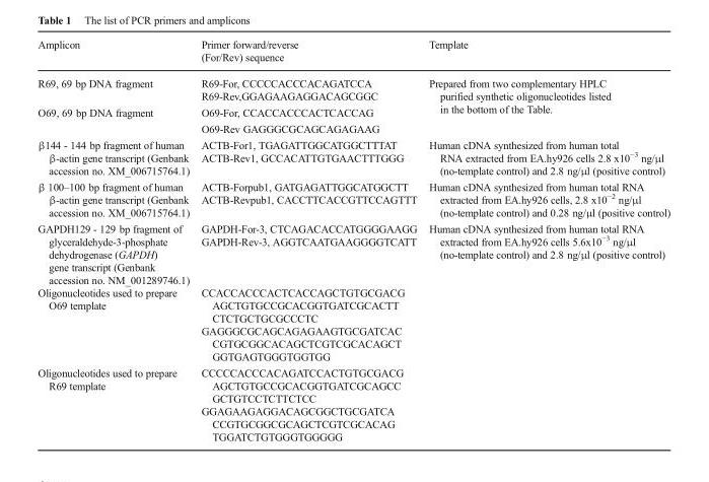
<table><thead><tr><td>Amplicon</td><td>Primer forward/reverse (For/Rev) sequence</td><td>Template</td></tr></thead><tbody><tr><td rowspan="2">R69, 69 bp DNA fragment</td><td>R69-For, CCCCCACCCACAGATCCA</td><td rowspan="4">Prepared from two complementary HPLC purified synthetic oligonucleotides listed in the bottom of the Table.</td></tr><tr><td>R69-Rev,GGAGAAGAGGACAGCGGC</td></tr><tr><td rowspan="2">O69, 69 bp DNA fragment</td><td>O69-For, CCACCACCCACTCACCAG</td></tr><tr><td>O69-Rev GAGGGCGCAGCAGAGAAG</td></tr><tr><td rowspan="2">β144 - 144 bp fragment of human β-actin gene transcript (Genbank accession no. XM_006715764.1)</td><td>ACTB-For1, TGAGATTGGCATGGCTTTAT</td><td rowspan="2">Human cDNA synthesized from human total RNA extracted from EA.hy926 cells 2.8 x10<sup>−3</sup> ng/μl (no-template control) and 2.8 ng/μl (positive control)</td></tr><tr><td>ACTB-Rev1, GCCACATTGTGAACTTTGGG</td></tr><tr><td rowspan="2">β 100–100 bp fragment of human β-actin gene transcript (Genbank accession no. XM_006715764.1)</td><td>ACTB-Forpub1, GATGAGATTGGCATGGCTT</td><td rowspan="2">Human cDNA synthesized from human total RNA extracted from EA.hy926 cells, 2.8 x10<sup>−2</sup> ng/μl (no-template control) and 0.28 ng/μl (positive control)</td></tr><tr><td>ACTB-Revpub1, CACCTTCACCGTTCCAGTTT</td></tr><tr><td rowspan="2">GAPDH129 - 129 bp fragment of glyceraldehyde-3-phosphate dehydrogenase (GAPDH) gene transcript (Genbank accession no. NM_001289746.1)</td><td>GAPDH-For-3, CTCAGACACCATGGGGAAGG</td><td rowspan="2">Human cDNA synthesized from human total RNA extracted from EA.hy926 cells 5.6x10<sup>−3</sup> ng/μl (no-template control) and 2.8 ng/μl (positive control)</td></tr><tr><td>GAPDH-Rev-3, AGGTCAATGAAGGGGTCATT</td></tr><tr><td>Oligonucleotides used to prepare O69 template</td><td colspan="2">CCACCACCCACTCACCAGCTGTGCGACG AGCTGTGCCGCACGGTGATCGCACTT CTCTGCTGCGCCCTC GAGGGCGCAGCAGAGAAGTGCGATCAC CGTGCGGCACAGCTCGTCGCACAGCT GGTGAGTGGGTGGTGG</td></tr><tr><td>Oligonucleotides used to prepare R69 template</td><td colspan="2">CCCCCACCCACAGATCCACTGTGCGACG AGCTGTGCCGCACGGTGATCGCAGCC GCTGTCCTCTTCTCC GGAGAAGAGGACAGCGGCTGCGATCA CCGTGCGGCGCAGCTCGTCGCACAG TGGATCTGTGGGTGGGGG</td></tr></tbody></table>